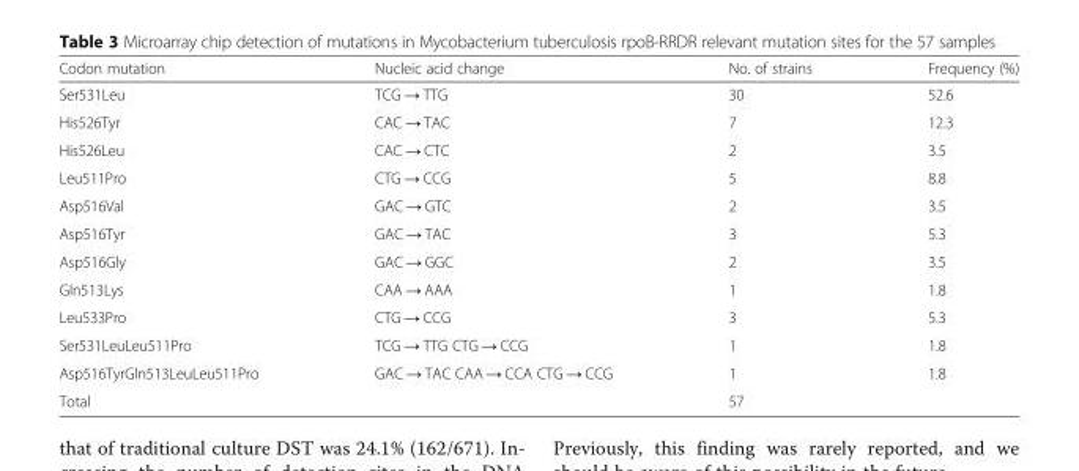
<table><thead><tr><td>Codon mutation</td><td>Nucleic acid change</td><td>No. of strains</td><td>Frequency (%)</td></tr></thead><tbody><tr><td>Ser531Leu</td><td>TCG → TTG</td><td>30</td><td>52.6</td></tr><tr><td>His526Tyr</td><td>CAC → TAC</td><td>7</td><td>12.3</td></tr><tr><td>His526Leu</td><td>CAC → CTC</td><td>2</td><td>3.5</td></tr><tr><td>Leu511Pro</td><td>CTG → CCG</td><td>5</td><td>8.8</td></tr><tr><td>Asp516Val</td><td>GAC → GTC</td><td>2</td><td>3.5</td></tr><tr><td>Asp516Tyr</td><td>GAC → TAC</td><td>3</td><td>5.3</td></tr><tr><td>Asp516Gly</td><td>GAC → GGC</td><td>2</td><td>3.5</td></tr><tr><td>Gln513Lys</td><td>CAA → AAA</td><td>1</td><td>1.8</td></tr><tr><td>Leu533Pro</td><td>CTG → CCG</td><td>3</td><td>5.3</td></tr><tr><td>Ser531LeuLeu511Pro</td><td>TCG → TTG CTG → CCG</td><td>1</td><td>1.8</td></tr><tr><td>Asp516TyrGln513LeuLeu511Pro</td><td>GAC → TAC CAA → CCA CTG → CCG</td><td>1</td><td>1.8</td></tr><tr><td>Total</td><td></td><td>57</td><td></td></tr></tbody></table>